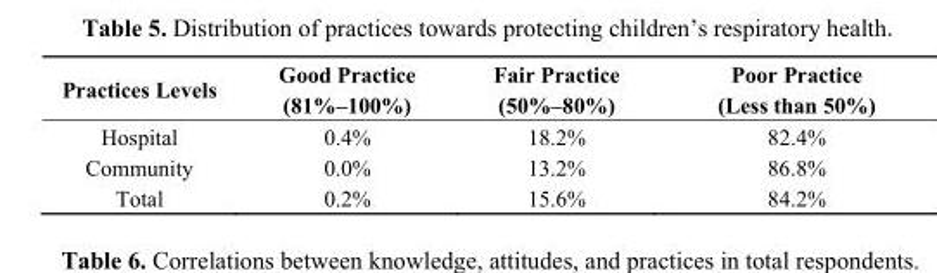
<table><thead><tr><td>Practices Levels</td><td>Good Practice (81%–100%)</td><td>Fair Practice (50%–80%)</td><td>Poor Practice (Less than 50%)</td></tr></thead><tbody><tr><td>Hospital</td><td>0.4%</td><td>18.2%</td><td>82.4%</td></tr><tr><td>Community</td><td>0.0%</td><td>13.2%</td><td>86.8%</td></tr><tr><td>Total</td><td>0.2%</td><td>15.6%</td><td>84.2%</td></tr></tbody></table>